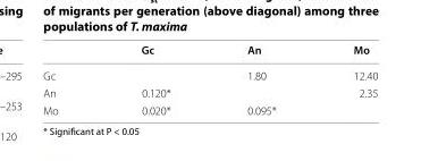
<table><thead><tr><td></td><td>Gc</td><td>An</td><td>Mo</td></tr></thead><tbody><tr><td>Gc</td><td></td><td>1.80</td><td>12.40</td></tr><tr><td>An</td><td>0.120*</td><td></td><td>2.35</td></tr><tr><td>Mo</td><td>0.020*</td><td>0.095*</td><td></td></tr></tbody></table>